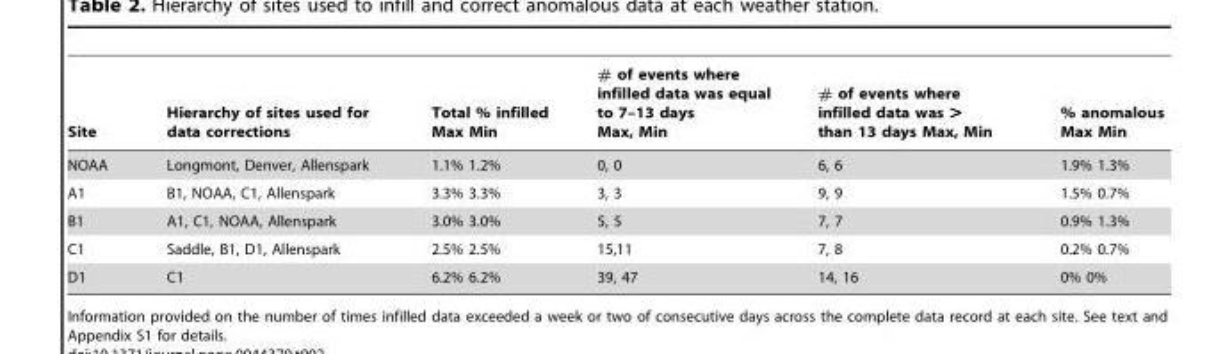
<table><thead><tr><td>Site</td><td>Hierarchy of sites used for data corrections</td><td>Total % infilled Max Min</td><td># of events where infilled data was equal to 7–13 days Max, Min</td><td># of events where infilled data was &gt; than 13 days Max, Min</td><td>% anomalous Max Min</td></tr></thead><tbody><tr><td>NOAA</td><td>Longmont, Denver, Allenspark</td><td>1.1% 1.2%</td><td>0, 0</td><td>6, 6</td><td>1.9% 1.3%</td></tr><tr><td>A1</td><td>B1, NOAA, C1, Allenspark</td><td>3.3% 3.3%</td><td>3, 3</td><td>9, 9</td><td>1.5% 0.7%</td></tr><tr><td>B1</td><td>A1, C1, NOAA, Allenspark</td><td>3.0% 3.0%</td><td>5, 5</td><td>7, 7</td><td>0.9% 1.3%</td></tr><tr><td>C1</td><td>Saddle, B1, D1, Allenspark</td><td>2.5% 2.5%</td><td>15,11</td><td>7, 8</td><td>0.2% 0.7%</td></tr><tr><td>D1</td><td>C1</td><td>6.2% 6.2%</td><td>39, 47</td><td>14, 16</td><td>0% 0%</td></tr></tbody></table>